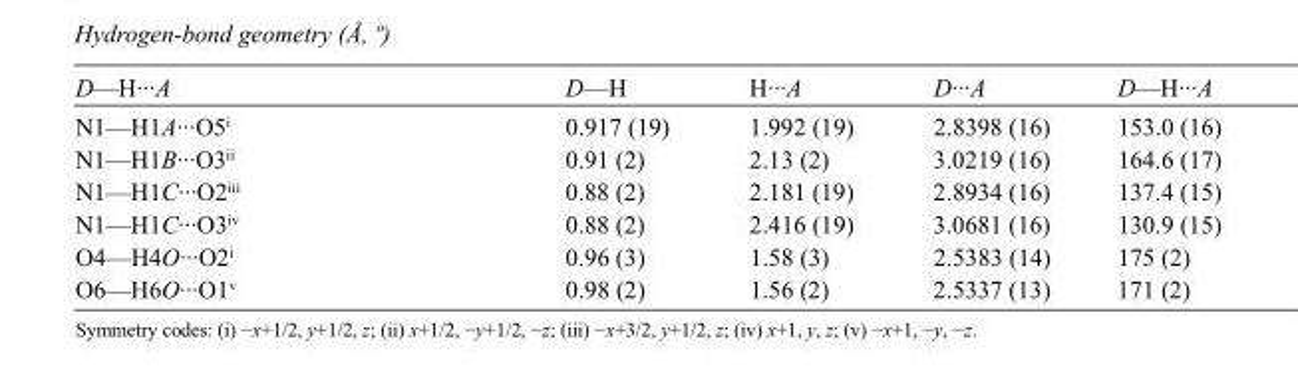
<table><tbody><tr><td>D—H···A</td><td>D—H</td><td>H···A</td><td>D···A</td><td>D—H···A</td></tr><tr><td>N1—H1A···O5<sup>i</sup></td><td>0.917 (19)</td><td>1.992 (19)</td><td>2.8398 (16)</td><td>153.0 (16)</td></tr><tr><td>N1—H1B···O3<sup>ii</sup></td><td>0.91 (2)</td><td>2.13 (2)</td><td>3.0219 (16)</td><td>164.6 (17)</td></tr><tr><td>N1—H1C···O2<sup>iii</sup></td><td>0.88 (2)</td><td>2.181 (19)</td><td>2.8934 (16)</td><td>137.4 (15)</td></tr><tr><td>N1—H1C···O3<sup>iv</sup></td><td>0.88 (2)</td><td>2.416 (19)</td><td>3.0681 (16)</td><td>130.9 (15)</td></tr><tr><td>O4—H4O···O2<sup>i</sup></td><td>0.96 (3)</td><td>1.58 (3)</td><td>2.5383 (14)</td><td>175 (2)</td></tr><tr><td>O6—H6O···O1<sup>v</sup></td><td>0.98 (2)</td><td>1.56 (2)</td><td>2.5337 (13)</td><td>171 (2)</td></tr></tbody></table>